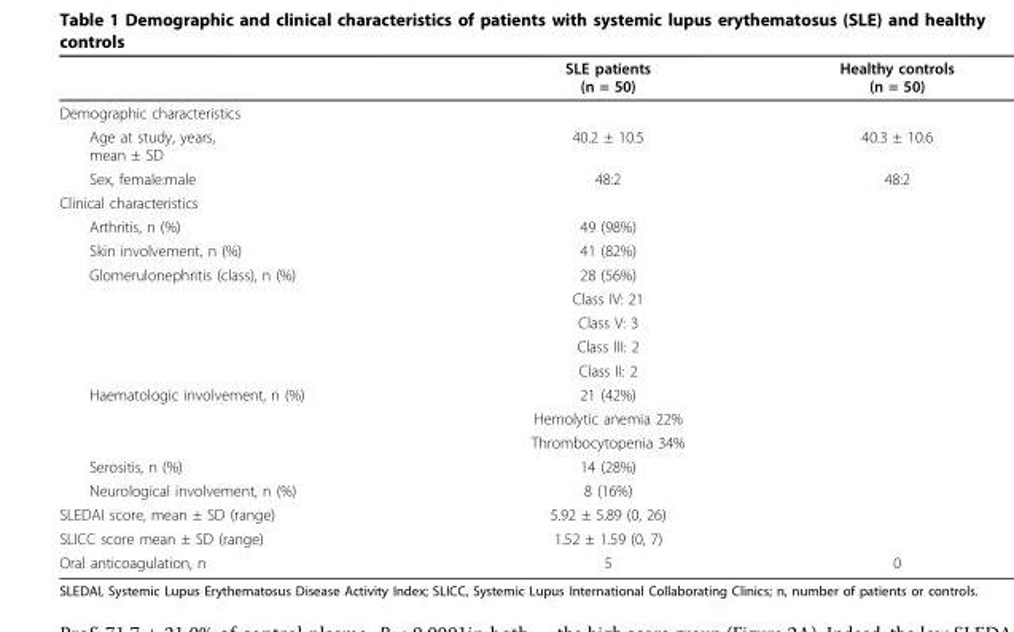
<table><thead><tr><td></td><td>SLE patients (n = 50)</td><td>Healthy controls (n = 50)</td></tr></thead><tbody><tr><td colspan="3">Demographic characteristics</td></tr><tr><td>Age at study, years, mean ± SD</td><td>40.2 ± 10.5</td><td>40.3 ± 10.6</td></tr><tr><td>Sex, female:male</td><td>48:2</td><td>48:2</td></tr><tr><td colspan="3">Clinical characteristics</td></tr><tr><td>Arthritis, n (%)</td><td>49 (98%)</td><td></td></tr><tr><td>Skin involvement, n (%)</td><td>41 (82%)</td><td></td></tr><tr><td rowspan="5">Glomerulonephritis (class), n (%)</td><td>28 (56%)</td><td></td></tr><tr><td>Class IV: 21</td><td></td></tr><tr><td>Class V: 3</td><td></td></tr><tr><td>Class III: 2</td><td></td></tr><tr><td>Class II: 2</td><td></td></tr><tr><td rowspan="3">Haematologic involvement, n (%)</td><td>21 (42%)</td><td></td></tr><tr><td>Hemolytic anemia 22%</td><td></td></tr><tr><td>Thrombocytopenia 34%</td><td></td></tr><tr><td>Serositis, n (%)</td><td>14 (28%)</td><td></td></tr><tr><td>Neurological involvement, n (%)</td><td>8 (16%)</td><td></td></tr><tr><td>SLEDAI score, mean ± SD (range)</td><td>5.92 ± 5.89 (0, 26)</td><td></td></tr><tr><td>SLICC score mean ± SD (range)</td><td>1.52 ± 1.59 (0, 7)</td><td></td></tr><tr><td>Oral anticoagulation, n</td><td>5</td><td>0</td></tr></tbody></table>